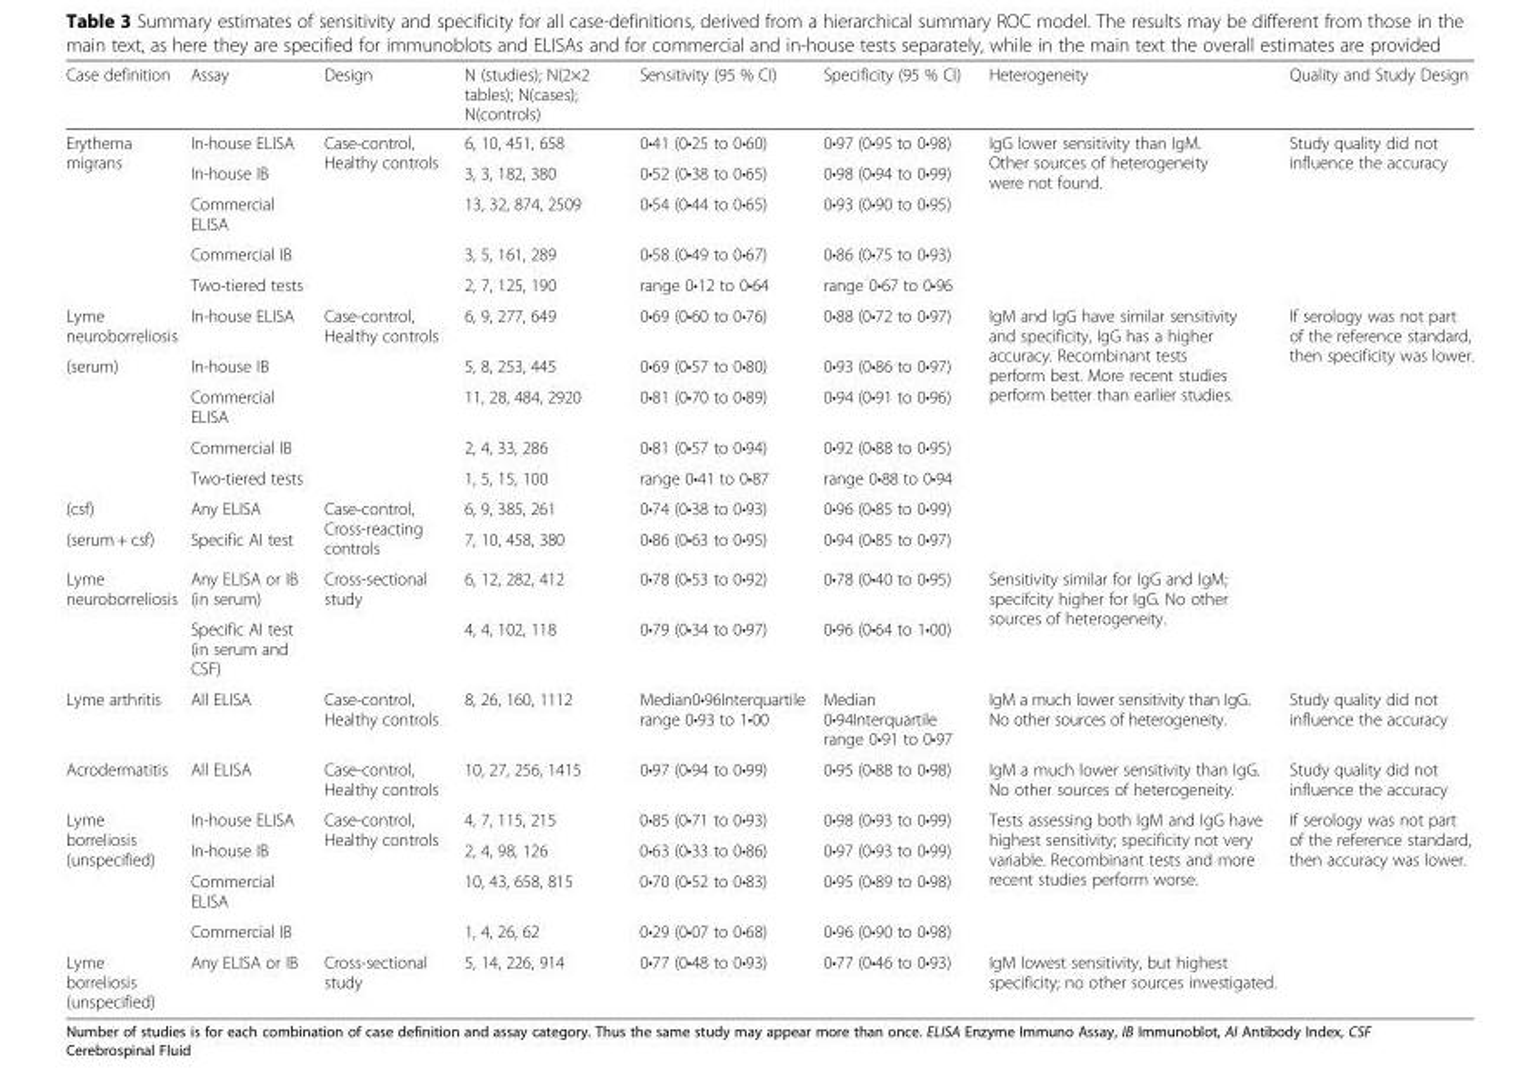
<table><thead><tr><td>Case definition</td><td>Assay</td><td>Design</td><td>N (studies); N(2×2 tables); N(cases); N(controls)</td><td>Sensitivity (95 % CI)</td><td>Specificity (95 % CI)</td><td>Heterogeneity</td><td>Quality and Study Design</td></tr></thead><tbody><tr><td rowspan="5">Erythema migrans</td><td>In-house ELISA</td><td rowspan="5">Case-control, Healthy controls</td><td>6, 10, 451, 658</td><td>0•41 (0•25 to 0•60)</td><td>0•97 (0•95 to 0•98)</td><td rowspan="5">IgG lower sensitivity than IgM. Other sources of heterogeneity were not found.</td><td rowspan="5">Study quality did not influence the accuracy</td></tr><tr><td>In-house IB</td><td>3, 3, 182, 380</td><td>0•52 (0•38 to 0•65)</td><td>0•98 (0•94 to 0•99)</td></tr><tr><td>Commercial ELISA</td><td>13, 32, 874, 2509</td><td>0•54 (0•44 to 0•65)</td><td>0•93 (0•90 to 0•95)</td></tr><tr><td>Commercial IB</td><td>3, 5, 161, 289</td><td>0•58 (0•49 to 0•67)</td><td>0•86 (0•75 to 0•93)</td></tr><tr><td>Two-tiered tests</td><td>2, 7, 125, 190</td><td>range 0•12 to 0•64</td><td>range 0•67 to 0•96</td></tr><tr><td>Lyme neuroborreliosis</td><td>In-house ELISA</td><td rowspan="5">Case-control, Healthy controls</td><td>6, 9, 277, 649</td><td>0•69 (0•60 to 0•76)</td><td>0•88 (0•72 to 0•97)</td><td rowspan="7">IgM and IgG have similar sensitivity and specificity, IgG has a higher accuracy. Recombinant tests perform best. More recent studies perform better than earlier studies.</td><td rowspan="7">If serology was not part of the reference standard, then specificity was lower.</td></tr><tr><td rowspan="4">(serum)</td><td>In-house IB</td><td>5, 8, 253, 445</td><td>0•69 (0•57 to 0•80)</td><td>0•93 (0•86 to 0•97)</td></tr><tr><td>Commercial ELISA</td><td>11, 28, 484, 2920</td><td>0•81 (0•70 to 0•89)</td><td>0•94 (0•91 to 0•96)</td></tr><tr><td>Commercial IB</td><td>2, 4, 33, 286</td><td>0•81 (0•57 to 0•94)</td><td>0•92 (0•88 to 0•95)</td></tr><tr><td>Two-tiered tests</td><td>1, 5, 15, 100</td><td>range 0•41 to 0•87</td><td>range 0•88 to 0•94</td></tr><tr><td>(csf)</td><td>Any ELISA</td><td rowspan="2">Case-control, Cross-reacting controls</td><td>6, 9, 385, 261</td><td>0•74 (0•38 to 0•93)</td><td>0•96 (0•85 to 0•99)</td></tr><tr><td>(serum + csf)</td><td>Specific AI test</td><td>7, 10, 458, 380</td><td>0•86 (0•63 to 0•95)</td><td>0•94 (0•85 to 0•97)</td></tr><tr><td rowspan="2">Lyme neuroborreliosis</td><td>Any ELISA or IB (in serum)</td><td rowspan="2">Cross-sectional study</td><td>6, 12, 282, 412</td><td>0•78 (0•53 to 0•92)</td><td>0•78 (0•40 to 0•95)</td><td rowspan="2">Sensitivity similar for IgG and IgM; specifcity higher for IgG. No other sources of heterogeneity.</td><td rowspan="2"></td></tr><tr><td>Specific AI test (in serum and CSF)</td><td>4, 4, 102, 118</td><td>0•79 (0•34 to 0•97)</td><td>0•96 (0•64 to 1•00)</td></tr><tr><td>Lyme arthritis</td><td>All ELISA</td><td>Case-control, Healthy controls</td><td>8, 26, 160, 1112</td><td>Median0•96Interquartile range 0•93 to 1•00</td><td>Median 0•94Interquartile range 0•91 to 0•97</td><td>IgM a much lower sensitivity than IgG. No other sources of heterogeneity.</td><td>Study quality did not influence the accuracy</td></tr><tr><td>Acrodermatitis</td><td>All ELISA</td><td>Case-control, Healthy controls</td><td>10, 27, 256, 1415</td><td>0•97 (0•94 to 0•99)</td><td>0•95 (0•88 to 0•98)</td><td>IgM a much lower sensitivity than IgG. No other sources of heterogeneity.</td><td>Study quality did not influence the accuracy</td></tr><tr><td rowspan="4">Lyme borreliosis (unspecified)</td><td>In-house ELISA</td><td rowspan="4">Case-control, Healthy controls</td><td>4, 7, 115, 215</td><td>0•85 (0•71 to 0•93)</td><td>0•98 (0•93 to 0•99)</td><td rowspan="4">Tests assessing both IgM and IgG have highest sensitivity; specificity not very variable. Recombinant tests and more recent studies perform worse.</td><td rowspan="4">If serology was not part of the reference standard, then accuracy was lower.</td></tr><tr><td>In-house IB</td><td>2, 4, 98, 126</td><td>0•63 (0•33 to 0•86)</td><td>0•97 (0•93 to 0•99)</td></tr><tr><td>Commercial ELISA</td><td>10, 43, 658, 815</td><td>0•70 (0•52 to 0•83)</td><td>0•95 (0•89 to 0•98)</td></tr><tr><td>Commercial IB</td><td>1, 4, 26, 62</td><td>0•29 (0•07 to 0•68)</td><td>0•96 (0•90 to 0•98)</td></tr><tr><td>Lyme borreliosis (unspecified)</td><td>Any ELISA or IB</td><td>Cross-sectional study</td><td>5, 14, 226, 914</td><td>0•77 (0•48 to 0•93)</td><td>0•77 (0•46 to 0•93)</td><td>IgM lowest sensitivity, but highest specificity; no other sources investigated.</td><td></td></tr></tbody></table>